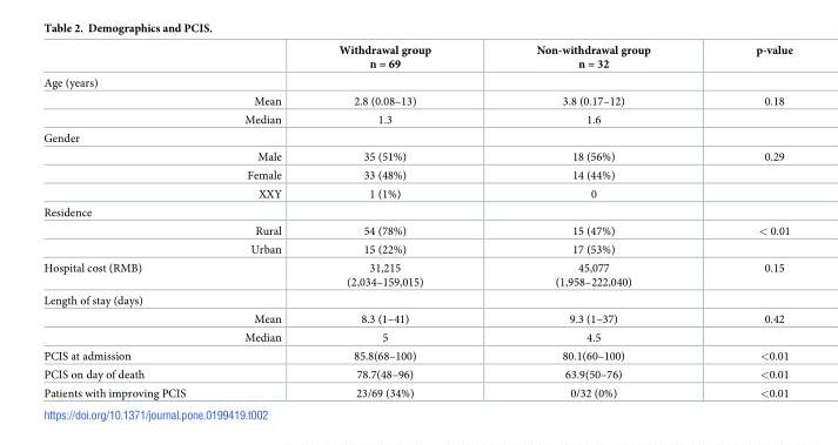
<table><thead><tr><td></td><td>Withdrawal group n = 69</td><td>Non-withdrawal group n = 32</td><td>p-value</td></tr></thead><tbody><tr><td colspan="4">Age (years)</td></tr><tr><td>Mean</td><td>2.8 (0.08–13)</td><td>3.8 (0.17–12)</td><td>0.18</td></tr><tr><td>Median</td><td>1.3</td><td>1.6</td><td></td></tr><tr><td colspan="4">Gender</td></tr><tr><td>Male</td><td>35 (51%)</td><td>18 (56%)</td><td>0.29</td></tr><tr><td>Female</td><td>33 (48%)</td><td>14 (44%)</td><td></td></tr><tr><td>XXY</td><td>1 (1%)</td><td>0</td><td></td></tr><tr><td colspan="4">Residence</td></tr><tr><td>Rural</td><td>54 (78%)</td><td>15 (47%)</td><td>&lt; 0.01</td></tr><tr><td>Urban</td><td>15 (22%)</td><td>17 (53%)</td><td></td></tr><tr><td>Hospital cost (RMB)</td><td>31,215 (2,034–159,015)</td><td>45,077 (1,958–222,040)</td><td>0.15</td></tr><tr><td colspan="4">Length of stay (days)</td></tr><tr><td>Mean</td><td>8.3 (1–41)</td><td>9.3 (1–37)</td><td>0.42</td></tr><tr><td>Median</td><td>5</td><td>4.5</td><td></td></tr><tr><td>PCIS at admission</td><td>85.8(68–100)</td><td>80.1(60–100)</td><td>&lt;0.01</td></tr><tr><td>PCIS on day of death</td><td>78.7(48–96)</td><td>63.9(50–76)</td><td>&lt;0.01</td></tr><tr><td>Patients with improving PCIS</td><td>23/69 (34%)</td><td>0/32 (0%)</td><td>&lt;0.01</td></tr></tbody></table>